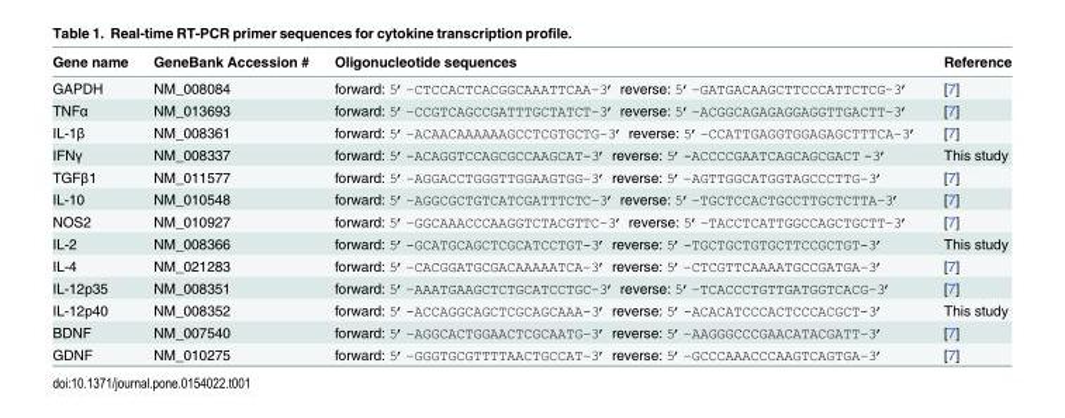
<table><thead><tr><td>Gene name</td><td>GeneBank Accession #</td><td>Oligonucleotide sequences</td><td>Reference</td></tr></thead><tbody><tr><td>GAPDH</td><td>NM_008084</td><td>forward: 5’–CTCCACTCACGGCAAATTCAA–3’ reverse: 5’–GATGACAAGCTTCCCATTCTCG–3’</td><td>[7]</td></tr><tr><td>TNFα</td><td>NM_013693</td><td>forward: 5’–CCGTCAGCCGATTTGCTATCT–3’ reverse: 5’–ACGGCAGAGAGGAGGTTGACTT–3’</td><td>[7]</td></tr><tr><td>IL-1β</td><td>NM_008361</td><td>forward: 5’–ACAACAAAAAAGCCTCGTGCTG–3’ reverse: 5’–CCATTGAGGTGGAGAGCTTTCA–3’</td><td>[7]</td></tr><tr><td>IFNγ</td><td>NM_008337</td><td>forward: 5’-ACAGGTCCAGCGCCAAGCAT-3’ reverse: 5’-ACCCCGAATCAGCAGCGACT -3’</td><td>This study</td></tr><tr><td>TGFβ1</td><td>NM_011577</td><td>forward: 5’–AGGACCTGGGTTGGAAGTGG–3’ reverse: 5’–AGTTGGCATGGTAGCCCTTG–3’</td><td>[7]</td></tr><tr><td>IL-10</td><td>NM_010548</td><td>forward: 5’–AGGCGCTGTCATCGATTTCTC–3’ reverse: 5’–TGCTCCACTGCCTTGCTCTTA–3’</td><td>[7]</td></tr><tr><td>NOS2</td><td>NM_010927</td><td>forward: 5’–GGCAAACCCAAGGTCTACGTTC–3’ reverse: 5’–TACCTCATTGGCCAGCTGCTT–3’</td><td>[7]</td></tr><tr><td>IL-2</td><td>NM_008366</td><td>forward: 5’-GCATGCAGCTCGCATCCTGT-3’ reverse: 5’-TGCTGCTGTGCTTCCGCTGT-3’</td><td>This study</td></tr><tr><td>IL-4</td><td>NM_021283</td><td>forward: 5’–CACGGATGCGACAAAAATCA–3’ reverse: 5’–CTCGTTCAAAATGCCGATGA–3’</td><td>[7]</td></tr><tr><td>IL-12p35</td><td>NM_008351</td><td>forward: 5’–AAATGAAGCTCTGCATCCTGC–3’ reverse: 5’–TCACCCTGTTGATGGTCACG–3’</td><td>[7]</td></tr><tr><td>IL-12p40</td><td>NM_008352</td><td>forward: 5’-ACCAGGCAGCTCGCAGCAAA-3’ reverse: 5’-ACACATCCCACTCCCACGCT-3’</td><td>This study</td></tr><tr><td>BDNF</td><td>NM_007540</td><td>forward: 5’–AGGCACTGGAACTCGCAATG–3’ reverse: 5’–AAGGGCCCGAACATACGATT–3’</td><td>[7]</td></tr><tr><td>GDNF</td><td>NM_010275</td><td>forward: 5’–GGGTGCGTTTTAACTGCCAT–3’ reverse: 5’–GCCCAAACCCAAGTCAGTGA–3’</td><td>[7]</td></tr></tbody></table>